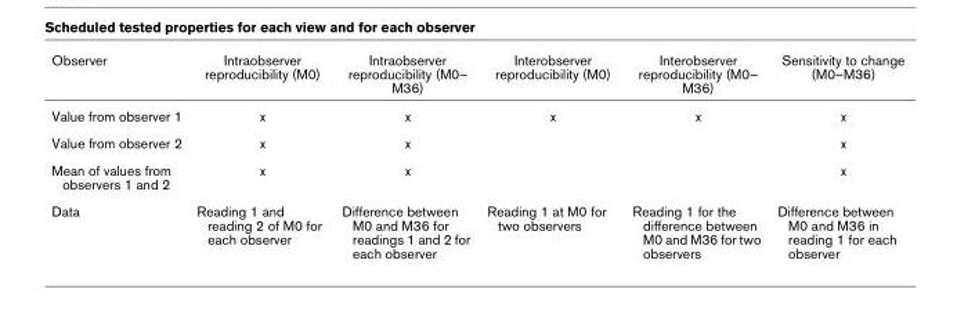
<table><thead><tr><td>Observer</td><td>Intraobserver reproducibility (M0)</td><td>Intraobserver reproducibility (M0– M36)</td><td>Interobserver reproducibility (M0)</td><td>Interobserver reproducibility (M0– M36)</td><td>Sensitivity to change (M0–M36)</td></tr></thead><tbody><tr><td>Value from observer 1</td><td>x</td><td>x</td><td>x</td><td>x</td><td>x</td></tr><tr><td>Value from observer 2</td><td>x</td><td>x</td><td></td><td></td><td>x</td></tr><tr><td>Mean of values from observers 1 and 2</td><td>x</td><td>x</td><td></td><td></td><td>x</td></tr><tr><td>Data</td><td>Reading 1 and reading 2 of M0 for each observer</td><td>Difference between M0 and M36 for readings 1 and 2 for each observer</td><td>Reading 1 at M0 for two observers</td><td>Reading 1 for the difference between M0 and M36 for two observers</td><td>Difference between M0 and M36 in reading 1 for each observer</td></tr></tbody></table>